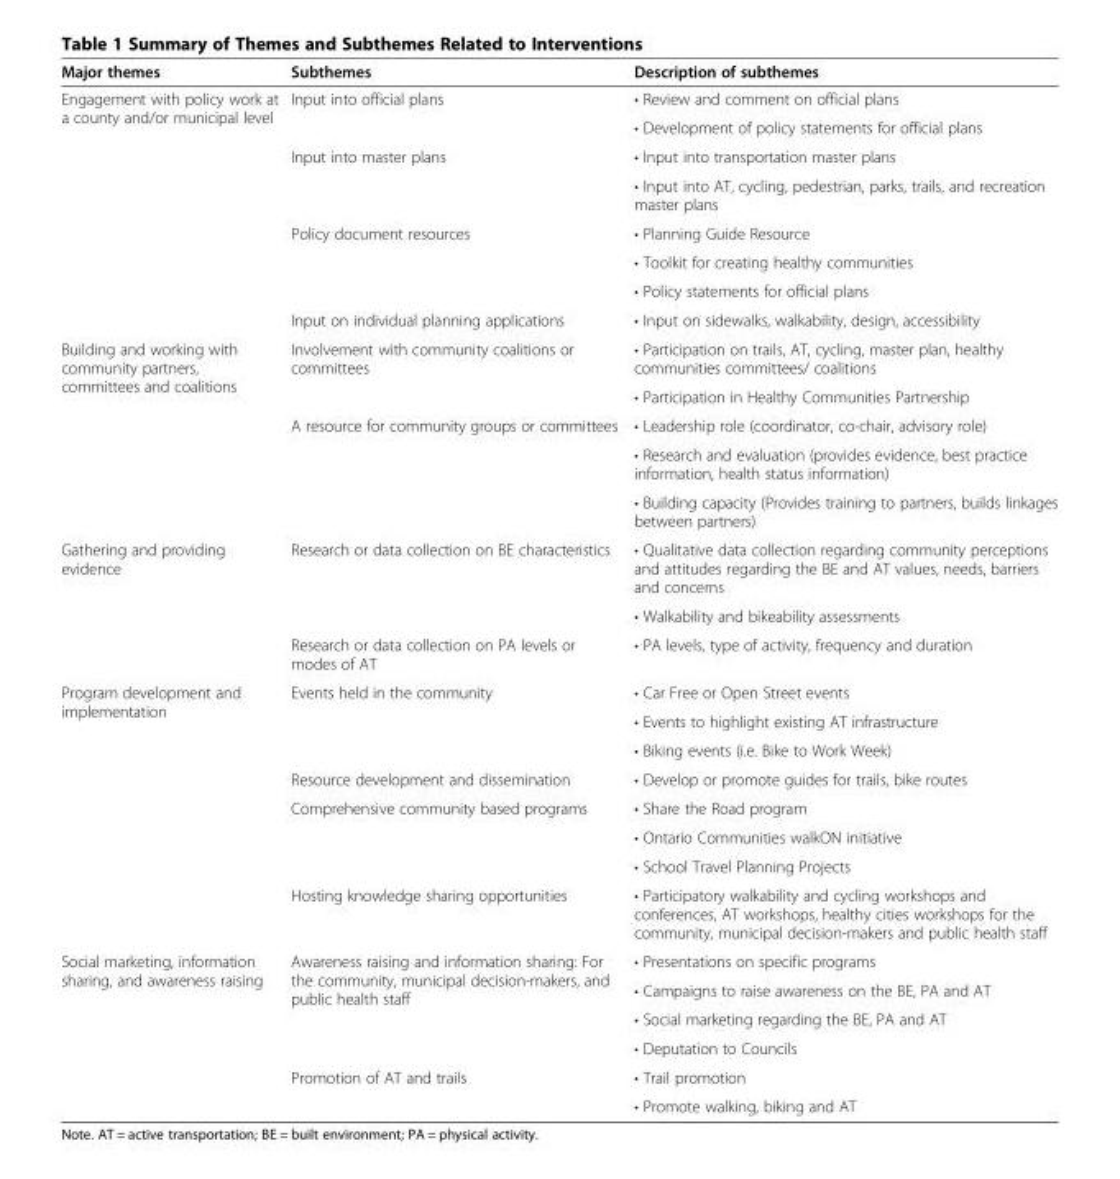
<table><thead><tr><td>Major themes</td><td>Subthemes</td><td>Description of subthemes</td></tr></thead><tbody><tr><td rowspan="8">Engagement with policy work at a county and/or municipal level</td><td rowspan="2">Input into official plans</td><td>• Review and comment on official plans</td></tr><tr><td>• Development of policy statements for official plans</td></tr><tr><td rowspan="2">Input into master plans</td><td>• Input into transportation master plans</td></tr><tr><td>• Input into AT, cycling, pedestrian, parks, trails, and recreation master plans</td></tr><tr><td rowspan="3">Policy document resources</td><td>• Planning Guide Resource</td></tr><tr><td>• Toolkit for creating healthy communities</td></tr><tr><td>• Policy statements for official plans</td></tr><tr><td>Input on individual planning applications</td><td>• Input on sidewalks, walkability, design, accessibility</td></tr><tr><td rowspan="5">Building and working with community partners, committees and coalitions</td><td rowspan="2">Involvement with community coalitions or committees</td><td>• Participation on trails, AT, cycling, master plan, healthy communities committees/ coalitions</td></tr><tr><td>• Participation in Healthy Communities Partnership</td></tr><tr><td rowspan="3">A resource for community groups or committees</td><td>• Leadership role (coordinator, co-chair, advisory role)</td></tr><tr><td>• Research and evaluation (provides evidence, best practice information, health status information)</td></tr><tr><td>• Building capacity (Provides training to partners, builds linkages between partners)</td></tr><tr><td rowspan="3">Gathering and providing evidence</td><td rowspan="2">Research or data collection on BE characteristics</td><td>• Qualitative data collection regarding community perceptions and attitudes regarding the BE and AT values, needs, barriers and concerns</td></tr><tr><td>• Walkability and bikeability assessments</td></tr><tr><td>Research or data collection on PA levels or modes of AT</td><td>• PA levels, type of activity, frequency and duration</td></tr><tr><td rowspan="8">Program development and implementation</td><td rowspan="3">Events held in the community</td><td>• Car Free or Open Street events</td></tr><tr><td>• Events to highlight existing AT infrastructure</td></tr><tr><td>• Biking events (i.e. Bike to Work Week)</td></tr><tr><td>Resource development and dissemination</td><td>• Develop or promote guides for trails, bike routes</td></tr><tr><td rowspan="3">Comprehensive community based programs</td><td>• Share the Road program</td></tr><tr><td>• Ontario Communities walkON initiative</td></tr><tr><td>• School Travel Planning Projects</td></tr><tr><td>Hosting knowledge sharing opportunities</td><td>• Participatory walkability and cycling workshops and conferences, AT workshops, healthy cities workshops for the community, municipal decision-makers and public health staff</td></tr><tr><td rowspan="6">Social marketing, information sharing, and awareness raising</td><td rowspan="4">Awareness raising and information sharing: For the community, municipal decision-makers, and public health staff</td><td>• Presentations on specific programs</td></tr><tr><td>• Campaigns to raise awareness on the BE, PA and AT</td></tr><tr><td>• Social marketing regarding the BE, PA and AT</td></tr><tr><td>• Deputation to Councils</td></tr><tr><td rowspan="2">Promotion of AT and trails</td><td>• Trail promotion</td></tr><tr><td>• Promote walking, biking and AT</td></tr></tbody></table>